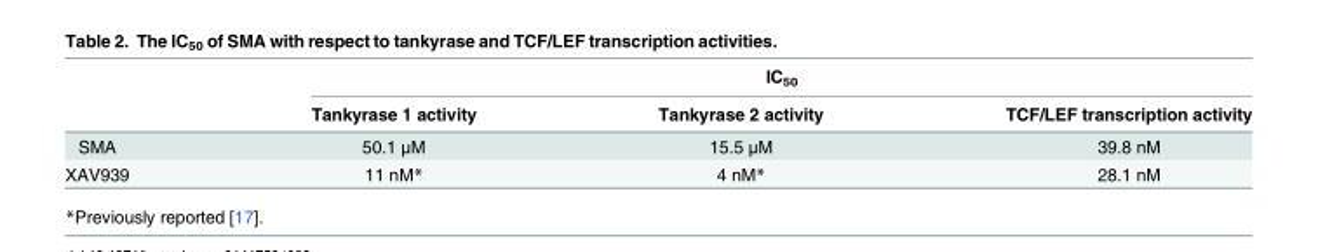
<table><thead><tr><td rowspan="2"></td><td colspan="3">IC<sub>50</sub></td></tr><tr><td>Tankyrase 1 activity</td><td>Tankyrase 2 activity</td><td>TCF/LEF transcription activity</td></tr></thead><tbody><tr><td>SMA</td><td>50.1 μM</td><td>15.5 μM</td><td>39.8 nM</td></tr><tr><td>XAV939</td><td>11 nM*</td><td>4 nM*</td><td>28.1 nM</td></tr></tbody></table>